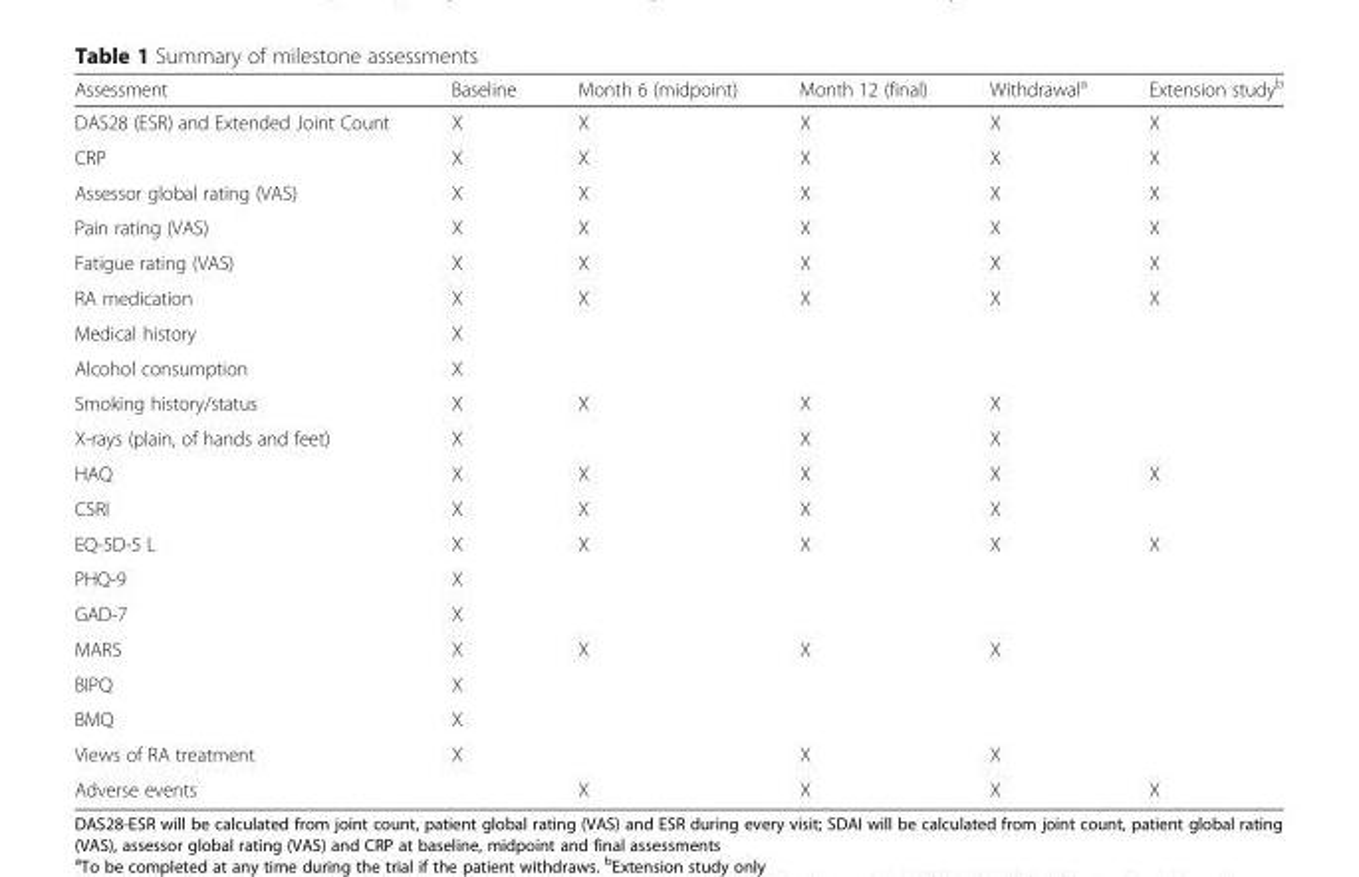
<table><thead><tr><td>Assessment</td><td>Baseline</td><td>Month 6 (midpoint)</td><td>Month 12 (final)</td><td>Withdrawal<sup>a</sup></td><td>Extension study<sup>b</sup></td></tr></thead><tbody><tr><td>DAS28 (ESR) and Extended Joint Count</td><td>X</td><td>X</td><td>X</td><td>X</td><td>X</td></tr><tr><td>CRP</td><td>X</td><td>X</td><td>X</td><td>X</td><td>X</td></tr><tr><td>Assessor global rating (VAS)</td><td>X</td><td>X</td><td>X</td><td>X</td><td>X</td></tr><tr><td>Pain rating (VAS)</td><td>X</td><td>X</td><td>X</td><td>X</td><td>X</td></tr><tr><td>Fatigue rating (VAS)</td><td>X</td><td>X</td><td>X</td><td>X</td><td>X</td></tr><tr><td>RA medication</td><td>X</td><td>X</td><td>X</td><td>X</td><td>X</td></tr><tr><td>Medical history</td><td>X</td><td></td><td></td><td></td><td></td></tr><tr><td>Alcohol consumption</td><td>X</td><td></td><td></td><td></td><td></td></tr><tr><td>Smoking history/status</td><td>X</td><td>X</td><td>X</td><td>X</td><td></td></tr><tr><td>X-rays (plain, of hands and feet)</td><td>X</td><td></td><td>X</td><td>X</td><td></td></tr><tr><td>HAQ</td><td>X</td><td>X</td><td>X</td><td>X</td><td>X</td></tr><tr><td>CSRI</td><td>X</td><td>X</td><td>X</td><td>X</td><td></td></tr><tr><td>EQ-5D-5 L</td><td>X</td><td>X</td><td>X</td><td>X</td><td>X</td></tr><tr><td>PHQ-9</td><td>X</td><td></td><td></td><td></td><td></td></tr><tr><td>GAD-7</td><td>X</td><td></td><td></td><td></td><td></td></tr><tr><td>MARS</td><td>X</td><td>X</td><td>X</td><td>X</td><td></td></tr><tr><td>BIPQ</td><td>X</td><td></td><td></td><td></td><td></td></tr><tr><td>BMQ</td><td>X</td><td></td><td></td><td></td><td></td></tr><tr><td>Views of RA treatment</td><td>X</td><td></td><td>X</td><td>X</td><td></td></tr><tr><td>Adverse events</td><td></td><td>X</td><td>X</td><td>X</td><td>X</td></tr></tbody></table>